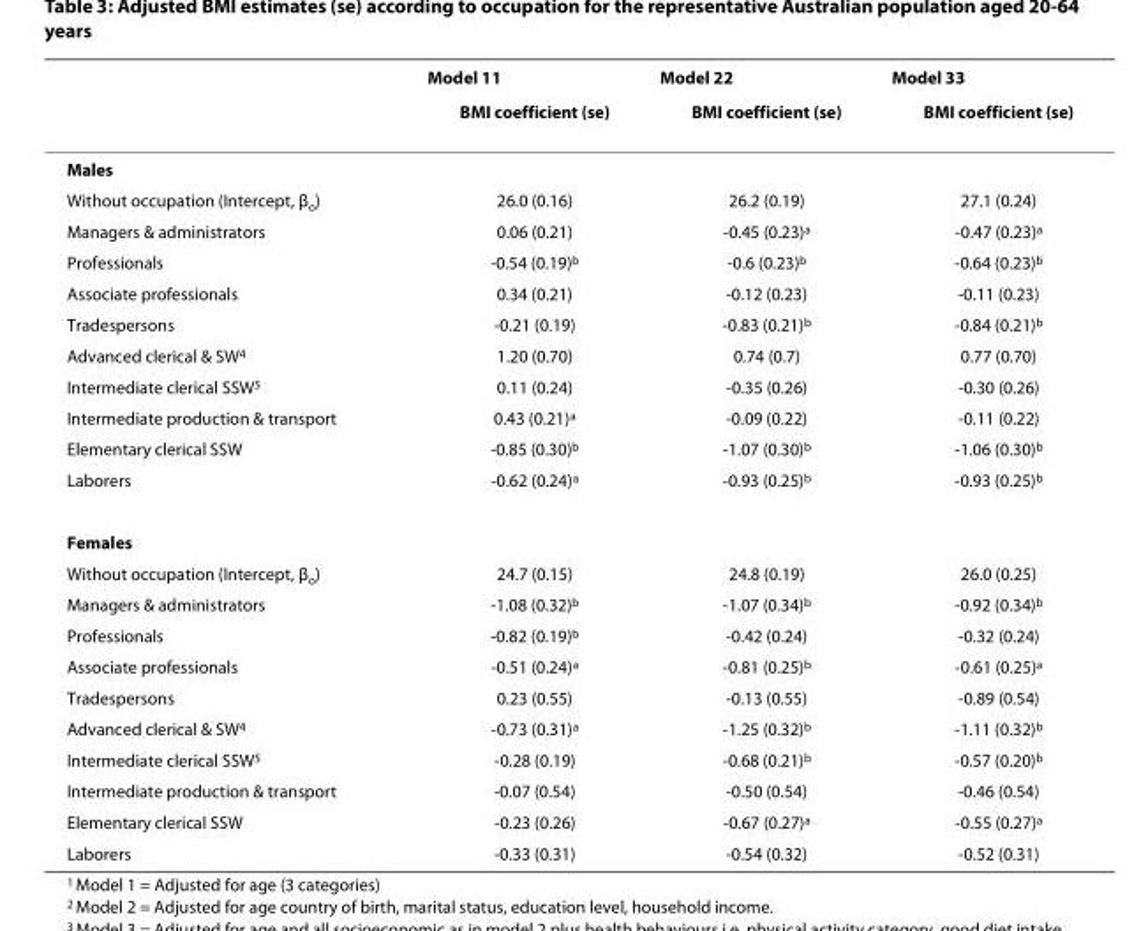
<table><thead><tr><td rowspan="2"></td><td rowspan="2">Model 1<sup>1</sup> BMI coefficient (se)</td><td rowspan="2">Model 2<sup>2</sup> BMI coefficient (se)</td><td rowspan="2">Model 3<sup>3</sup> BMI coefficient (se)</td></tr><tr></tr></thead><tbody><tr><td colspan="4">Males</td></tr><tr><td>Without occupation (Intercept, β<sub>o</sub>)</td><td>26.0 (0.16)</td><td>26.2 (0.19)</td><td>27.1 (0.24)</td></tr><tr><td>Managers &amp; administrators</td><td>0.06 (0.21)</td><td>-0.45 (0.23)<sup>a</sup></td><td>-0.47 (0.23)<sup>a</sup></td></tr><tr><td>Professionals</td><td>-0.54 (0.19)<sup>b</sup></td><td>-0.6 (0.23)<sup>b</sup></td><td>-0.64 (0.23)<sup>b</sup></td></tr><tr><td>Associate professionals</td><td>0.34 (0.21)</td><td>-0.12 (0.23)</td><td>-0.11 (0.23)</td></tr><tr><td>Tradespersons</td><td>-0.21 (0.19)</td><td>-0.83 (0.21)<sup>b</sup></td><td>-0.84 (0.21)<sup>b</sup></td></tr><tr><td>Advanced clerical &amp; SW<sup>4</sup></td><td>1.20 (0.70)</td><td>0.74 (0.7)</td><td>0.77 (0.70)</td></tr><tr><td>Intermediate clerical SSW<sup>5</sup></td><td>0.11 (0.24)</td><td>-0.35 (0.26)</td><td>-0.30 (0.26)</td></tr><tr><td>Intermediate production &amp; transport</td><td>0.43 (0.21)<sup>a</sup></td><td>-0.09 (0.22)</td><td>-0.11 (0.22)</td></tr><tr><td>Elementary clerical SSW</td><td>-0.85 (0.30)<sup>b</sup></td><td>-1.07 (0.30)<sup>b</sup></td><td>-1.06 (0.30)<sup>b</sup></td></tr><tr><td>Laborers</td><td>-0.62 (0.24)<sup>a</sup></td><td>-0.93 (0.25)<sup>b</sup></td><td>-0.93 (0.25)<sup>b</sup></td></tr><tr><td colspan="4">Females</td></tr><tr><td>Without occupation (Intercept, β<sub>o</sub>)</td><td>24.7 (0.15)</td><td>24.8 (0.19)</td><td>26.0 (0.25)</td></tr><tr><td>Managers &amp; administrators</td><td>-1.08 (0.32)<sup>b</sup></td><td>-1.07 (0.34)<sup>b</sup></td><td>-0.92 (0.34)<sup>b</sup></td></tr><tr><td>Professionals</td><td>-0.82 (0.19)<sup>b</sup></td><td>-0.42 (0.24)</td><td>-0.32 (0.24)</td></tr><tr><td>Associate professionals</td><td>-0.51 (0.24)<sup>a</sup></td><td>-0.81 (0.25)<sup>b</sup></td><td>-0.61 (0.25)<sup>a</sup></td></tr><tr><td>Tradespersons</td><td>0.23 (0.55)</td><td>-0.13 (0.55)</td><td>-0.89 (0.54)</td></tr><tr><td>Advanced clerical &amp; SW<sup>4</sup></td><td>-0.73 (0.31)<sup>a</sup></td><td>-1.25 (0.32)<sup>b</sup></td><td>-1.11 (0.32)<sup>b</sup></td></tr><tr><td>Intermediate clerical SSW<sup>5</sup></td><td>-0.28 (0.19)</td><td>-0.68 (0.21)<sup>b</sup></td><td>-0.57 (0.20)<sup>b</sup></td></tr><tr><td>Intermediate production &amp; transport</td><td>-0.07 (0.54)</td><td>-0.50 (0.54)</td><td>-0.46 (0.54)</td></tr><tr><td>Elementary clerical SSW</td><td>-0.23 (0.26)</td><td>-0.67 (0.27)<sup>a</sup></td><td>-0.55 (0.27)<sup>a</sup></td></tr><tr><td>Laborers</td><td>-0.33 (0.31)</td><td>-0.54 (0.32)</td><td>-0.52 (0.31)</td></tr></tbody></table>